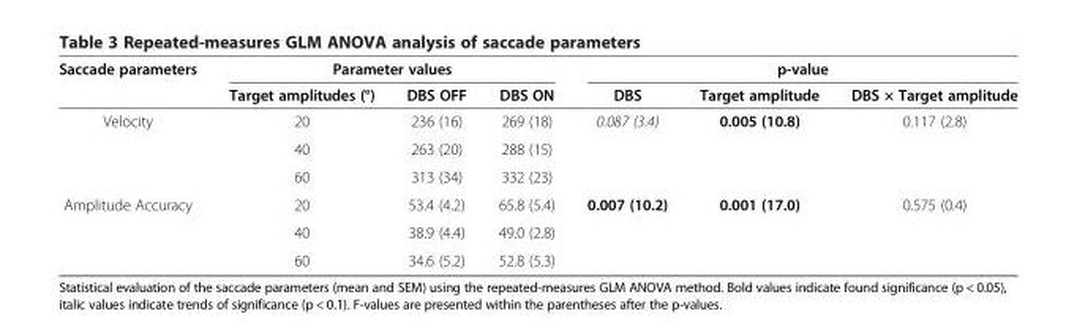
<table><thead><tr><td rowspan="2">Saccade parameters</td><td colspan="3">Parameter values</td><td colspan="3">p-value</td></tr><tr><td>Target amplitudes (°)</td><td>DBS OFF</td><td>DBS ON</td><td>DBS</td><td>Target amplitude</td><td>DBS × Target amplitude</td></tr></thead><tbody><tr><td rowspan="3">Velocity</td><td>20</td><td>236 (16)</td><td>269 (18)</td><td>0.087 (3.4)</td><td>0.005 (10.8)</td><td>0.117 (2.8)</td></tr><tr><td>40</td><td>263 (20)</td><td>288 (15)</td><td></td><td></td><td></td></tr><tr><td>60</td><td>313 (34)</td><td>332 (23)</td><td></td><td></td><td></td></tr><tr><td rowspan="3">Amplitude Accuracy</td><td>20</td><td>53.4 (4.2)</td><td>65.8 (5.4)</td><td>0.007 (10.2)</td><td>0.001 (17.0)</td><td>0.575 (0.4)</td></tr><tr><td>40</td><td>38.9 (4.4)</td><td>49.0 (2.8)</td><td></td><td></td><td></td></tr><tr><td>60</td><td>34.6 (5.2)</td><td>52.8 (5.3)</td><td></td><td></td><td></td></tr></tbody></table>